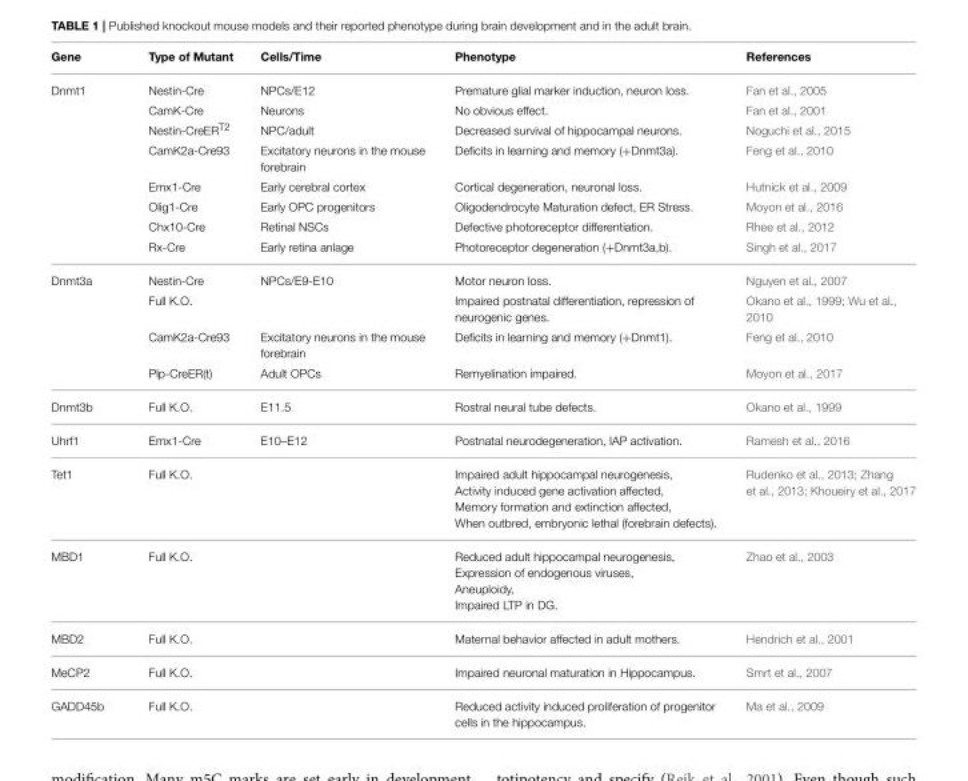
<table><thead><tr><td>Gene</td><td>Type of Mutant</td><td>Cells/Time</td><td>Phenotype</td><td>References</td></tr></thead><tbody><tr><td rowspan="8">Dnmt1</td><td>Nestin-Cre</td><td>NPCs/E12</td><td>Premature glial marker induction, neuron loss.</td><td>Fan et al., 2005</td></tr><tr><td>CamK-Cre</td><td>Neurons</td><td>No obvious effect.</td><td>Fan et al., 2001</td></tr><tr><td>Nestin-CreER<sup>T2</sup></td><td>NPC/adult</td><td>Decreased survival of hippocampal neurons.</td><td>Noguchi et al., 2015</td></tr><tr><td>CamK2a-Cre93</td><td>Excitatory neurons in the mouse forebrain</td><td>Deficits in learning and memory (+Dnmt3a).</td><td>Feng et al., 2010</td></tr><tr><td>Emx1-Cre</td><td>Early cerebral cortex</td><td>Cortical degeneration, neuronal loss.</td><td>Hutnick et al., 2009</td></tr><tr><td>Olig1-Cre</td><td>Early OPC progenitors</td><td>Oligodendrocyte Maturation defect, ER Stress.</td><td>Moyon et al., 2016</td></tr><tr><td>Chx10-Cre</td><td>Retinal NSCs</td><td>Defective photoreceptor differentiation.</td><td>Rhee et al., 2012</td></tr><tr><td>Rx-Cre</td><td>Early retina anlage</td><td>Photoreceptor degeneration (+Dnmt3a,b).</td><td>Singh et al., 2017</td></tr><tr><td rowspan="4">Dnmt3a</td><td>Nestin-Cre</td><td>NPCs/E9-E10</td><td>Motor neuron loss.</td><td>Nguyen et al., 2007</td></tr><tr><td>Full K.O.</td><td></td><td>Impaired postnatal differentiation, repression of neurogenic genes.</td><td>Okano et al., 1999; Wu et al., 2010</td></tr><tr><td>CamK2a-Cre93</td><td>Excitatory neurons in the mouse forebrain</td><td>Deficits in learning and memory (+Dnmt1).</td><td>Feng et al., 2010</td></tr><tr><td>Plp-CreER(t)</td><td>Adult OPCs</td><td>Remyelination impaired.</td><td>Moyon et al., 2017</td></tr><tr><td>Dnmt3b</td><td>Full K.O.</td><td>E11.5</td><td>Rostral neural tube defects.</td><td>Okano et al., 1999</td></tr><tr><td>Uhrf1</td><td>Emx1-Cre</td><td>E10–E12</td><td>Postnatal neurodegeneration, IAP activation.</td><td>Ramesh et al., 2016</td></tr><tr><td>Tet1</td><td>Full K.O.</td><td></td><td>Impaired adult hippocampal neurogenesis, Activity induced gene activation affected, Memory formation and extinction affected, When outbred, embryonic lethal (forebrain defects).</td><td>Rudenko et al., 2013; Zhang et al., 2013; Khoueiry et al., 2017</td></tr><tr><td>MBD1</td><td>Full K.O.</td><td></td><td>Reduced adult hippocampal neurogenesis, Expression of endogenous viruses, Aneuploidy, Impaired LTP in DG.</td><td>Zhao et al., 2003</td></tr><tr><td>MBD2</td><td>Full K.O.</td><td></td><td>Maternal behavior affected in adult mothers.</td><td>Hendrich et al., 2001</td></tr><tr><td>MeCP2</td><td>Full K.O.</td><td></td><td>Impaired neuronal maturation in Hippocampus.</td><td>Smrt et al., 2007</td></tr><tr><td>GADD45b</td><td>Full K.O.</td><td></td><td>Reduced activity induced proliferation of progenitor cells in the hippocampus.</td><td>Ma et al., 2009</td></tr></tbody></table>